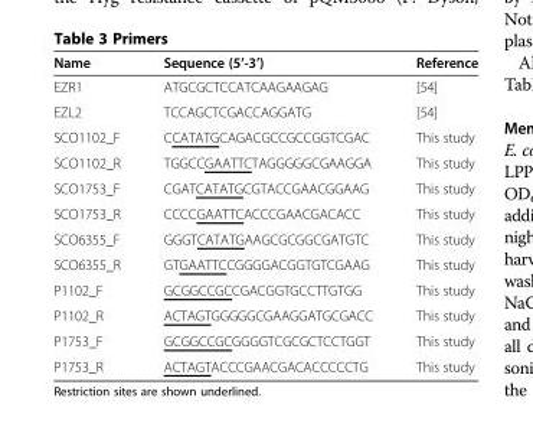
<table><thead><tr><td>Name</td><td>Sequence (5’-3’)</td><td>Reference</td></tr></thead><tbody><tr><td>EZR1</td><td>ATGCGCTCCATCAAGAAGAG</td><td>[54]</td></tr><tr><td>EZL2</td><td>TCCAGCTCGACCAGGATG</td><td>[54]</td></tr><tr><td>SCO1102_F</td><td>CCATATGCAGACGCCGCCGGTCGAC</td><td>This study</td></tr><tr><td>SCO1102_R</td><td>TGGCCGAATTCTAGGGGGCGAAGGA</td><td>This study</td></tr><tr><td>SCO1753_F</td><td>CGATCATATGCGTACCGAACGGAAG</td><td>This study</td></tr><tr><td>SCO1753_R</td><td>CCCCGAATTCACCCGAACGACACC</td><td>This study</td></tr><tr><td>SCO6355_F</td><td>GGGTCATATGAAGCGCGGCGATGTC</td><td>This study</td></tr><tr><td>SCO6355_R</td><td>GTGAATTCCGGGGACGGTGTCGAAG</td><td>This study</td></tr><tr><td>P1102_F</td><td>GCGGCCGCCGACGGTGCCTTGTGG</td><td>This study</td></tr><tr><td>P1102_R</td><td>ACTAGTGGGGGCGAAGGATGCGACC</td><td>This study</td></tr><tr><td>P1753_F</td><td>GCGGCCGCGGGGTCGCGCTCCTGGT</td><td>This study</td></tr><tr><td>P1753_R</td><td>ACTAGTACCCGAACGACACCCCCTG</td><td>This study</td></tr></tbody></table>